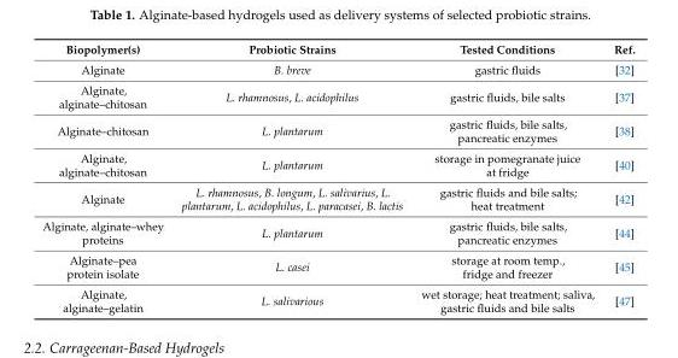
<table><thead><tr><td>Biopolymer(s)</td><td>Probiotic Strains</td><td>Tested Conditions</td><td>Ref.</td></tr></thead><tbody><tr><td>Alginate</td><td>B. breve</td><td>gastric fluids</td><td>[32]</td></tr><tr><td>Alginate, alginate–chitosan</td><td>L. rhamnosus, L. acidophilus</td><td>gastric fluids, bile salts</td><td>[37]</td></tr><tr><td>Alginate–chitosan</td><td>L. plantarum</td><td>gastric fluids, bile salts, pancreatic enzymes</td><td>[38]</td></tr><tr><td>Alginate, alginate–chitosan</td><td>L. plantarum</td><td>storage in pomegranate juice at fridge</td><td>[40]</td></tr><tr><td>Alginate</td><td>L. rhamnosus, B. longum, L. salivarius, L. plantarum, L. acidophilus, L. paracasei, B. lactis</td><td>gastric fluids and bile salts; heat treatment</td><td>[42]</td></tr><tr><td>Alginate, alginate–whey proteins</td><td>L. plantarum</td><td>gastric fluids, bile salts, pancreatic enzymes</td><td>[44]</td></tr><tr><td>Alginate–pea protein isolate</td><td>L. casei</td><td>storage at room temp., fridge and freezer</td><td>[45]</td></tr><tr><td>Alginate, alginate–gelatin</td><td>L. salivarious</td><td>wet storage; heat treatment; saliva, gastric fluids and bile salts</td><td>[47]</td></tr></tbody></table>